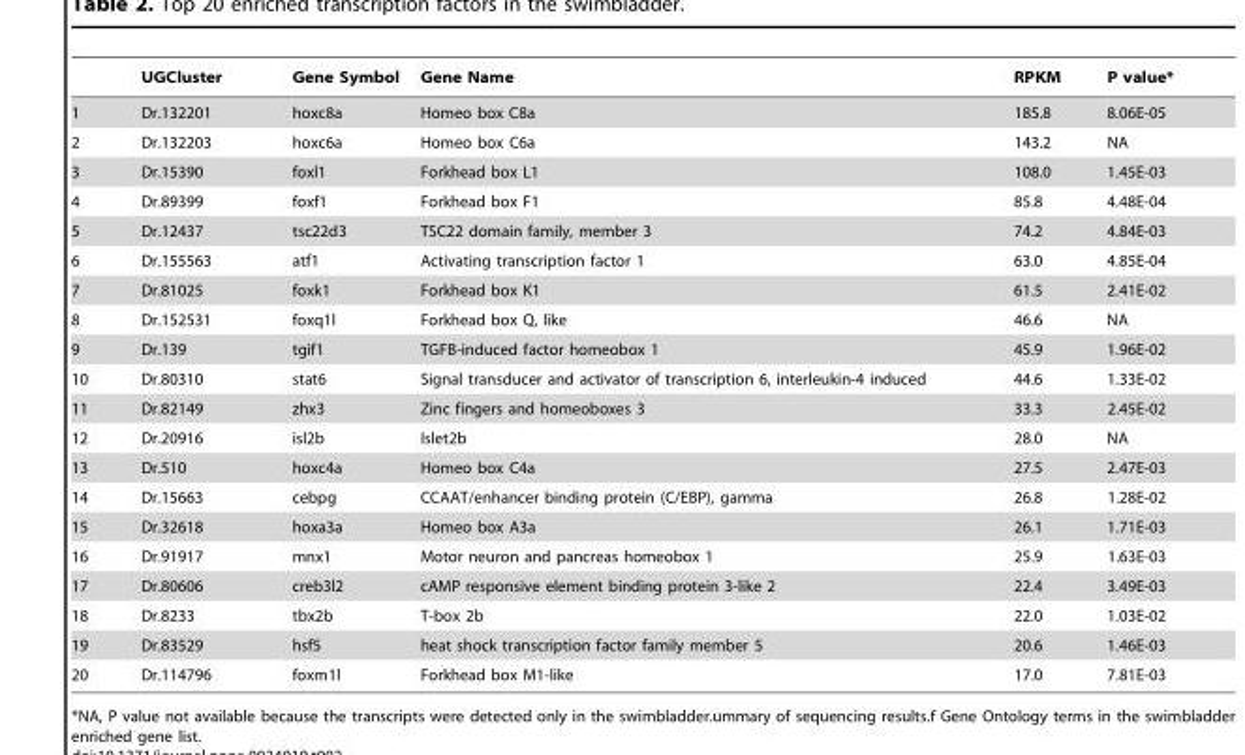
<table><thead><tr><td></td><td>UGCluster</td><td>Gene Symbol</td><td>Gene Name</td><td>RPKM</td><td>P value*</td></tr></thead><tbody><tr><td>1</td><td>Dr.132201</td><td>hoxc8a</td><td>Homeo box C8a</td><td>185.8</td><td>8.06E-05</td></tr><tr><td>2</td><td>Dr.132203</td><td>hoxc6a</td><td>Homeo box C6a</td><td>143.2</td><td>NA</td></tr><tr><td>3</td><td>Dr.15390</td><td>foxl1</td><td>Forkhead box L1</td><td>108.0</td><td>1.45E-03</td></tr><tr><td>4</td><td>Dr.89399</td><td>foxf1</td><td>Forkhead box F1</td><td>85.8</td><td>4.48E-04</td></tr><tr><td>5</td><td>Dr.12437</td><td>tsc22d3</td><td>TSC22 domain family, member 3</td><td>74.2</td><td>4.84E-03</td></tr><tr><td>6</td><td>Dr.155563</td><td>atf1</td><td>Activating transcription factor 1</td><td>63.0</td><td>4.85E-04</td></tr><tr><td>7</td><td>Dr.81025</td><td>foxk1</td><td>Forkhead box K1</td><td>61.5</td><td>2.41E-02</td></tr><tr><td>8</td><td>Dr.152531</td><td>foxq1l</td><td>Forkhead box Q, like</td><td>46.6</td><td>NA</td></tr><tr><td>9</td><td>Dr.139</td><td>tgif1</td><td>TGFB-induced factor homeobox 1</td><td>45.9</td><td>1.96E-02</td></tr><tr><td>10</td><td>Dr.80310</td><td>stat6</td><td>Signal transducer and activator of transcription 6, interleukin-4 induced</td><td>44.6</td><td>1.33E-02</td></tr><tr><td>11</td><td>Dr.82149</td><td>zhx3</td><td>Zinc fingers and homeoboxes 3</td><td>33.3</td><td>2.45E-02</td></tr><tr><td>12</td><td>Dr.20916</td><td>isl2b</td><td>Islet2b</td><td>28.0</td><td>NA</td></tr><tr><td>13</td><td>Dr.510</td><td>hoxc4a</td><td>Homeo box C4a</td><td>27.5</td><td>2.47E-03</td></tr><tr><td>14</td><td>Dr.15663</td><td>cebpg</td><td>CCAAT/enhancer binding protein (C/EBP), gamma</td><td>26.8</td><td>1.28E-02</td></tr><tr><td>15</td><td>Dr.32618</td><td>hoxa3a</td><td>Homeo box A3a</td><td>26.1</td><td>1.71E-03</td></tr><tr><td>16</td><td>Dr.91917</td><td>mnx1</td><td>Motor neuron and pancreas homeobox 1</td><td>25.9</td><td>1.63E-03</td></tr><tr><td>17</td><td>Dr.80606</td><td>creb3l2</td><td>cAMP responsive element binding protein 3-like 2</td><td>22.4</td><td>3.49E-03</td></tr><tr><td>18</td><td>Dr.8233</td><td>tbx2b</td><td>T-box 2b</td><td>22.0</td><td>1.03E-02</td></tr><tr><td>19</td><td>Dr.83529</td><td>hsf5</td><td>heat shock transcription factor family member 5</td><td>20.6</td><td>1.46E-03</td></tr><tr><td>20</td><td>Dr.114796</td><td>foxm1l</td><td>Forkhead box M1-like</td><td>17.0</td><td>7.81E-03</td></tr></tbody></table>